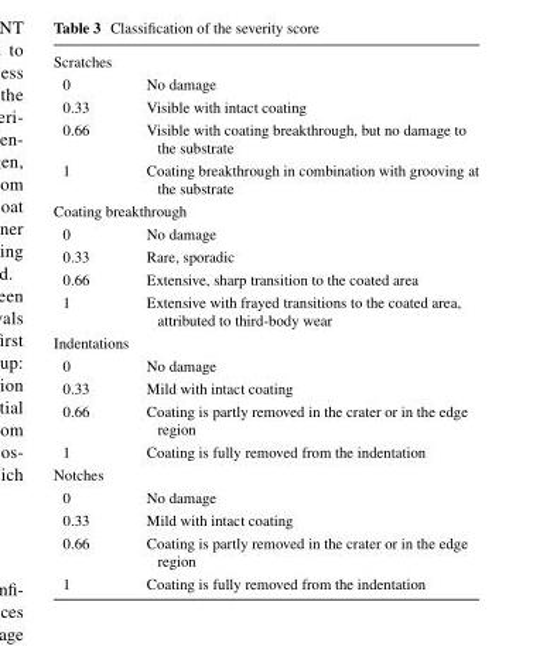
<table><tbody><tr><td colspan="2">Scratches</td></tr><tr><td>0</td><td>No damage</td></tr><tr><td>0.33</td><td>Visible with intact coating</td></tr><tr><td>0.66</td><td>Visible with coating breakthrough, but no damage to the substrate</td></tr><tr><td>1</td><td>Coating breakthrough in combination with grooving at the substrate</td></tr><tr><td colspan="2">Coating breakthrough</td></tr><tr><td>0</td><td>No damage</td></tr><tr><td>0.33</td><td>Rare, sporadic</td></tr><tr><td>0.66</td><td>Extensive, sharp transition to the coated area</td></tr><tr><td>1</td><td>Extensive with frayed transitions to the coated area, attributed to third-body wear</td></tr><tr><td colspan="2">Indentations</td></tr><tr><td>0</td><td>No damage</td></tr><tr><td>0.33</td><td>Mild with intact coating</td></tr><tr><td>0.66</td><td>Coating is partly removed in the crater or in the edge region</td></tr><tr><td>1</td><td>Coating is fully removed from the indentation</td></tr><tr><td colspan="2">Notches</td></tr><tr><td>0</td><td>No damage</td></tr><tr><td>0.33</td><td>Mild with intact coating</td></tr><tr><td>0.66</td><td>Coating is partly removed in the crater or in the edge region</td></tr><tr><td>1</td><td>Coating is fully removed from the indentation</td></tr></tbody></table>